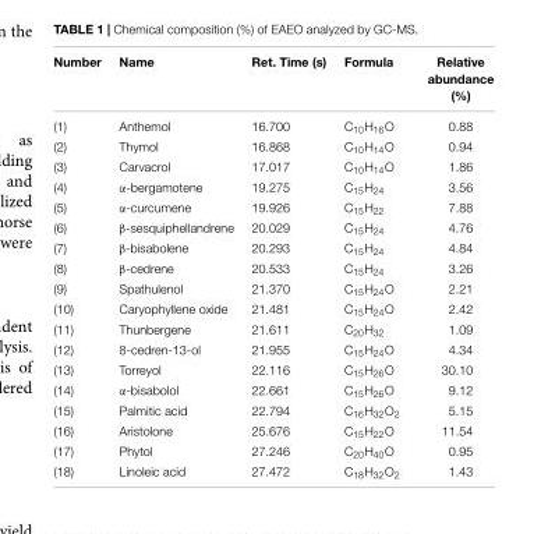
<table><thead><tr><td>Number</td><td>Name</td><td>Ret. Time (s)</td><td>Formula</td><td>Relative abundance (%)</td></tr></thead><tbody><tr><td>(1)</td><td>Anthemol</td><td>16.700</td><td>C<sub>10</sub>H<sub>16</sub>O</td><td>0.88</td></tr><tr><td>(2)</td><td>Thymol</td><td>16.868</td><td>C<sub>10</sub>H<sub>14</sub>O</td><td>0.94</td></tr><tr><td>(3)</td><td>Carvacrol</td><td>17.017</td><td>C<sub>10</sub>H<sub>14</sub>O</td><td>1.86</td></tr><tr><td>(4)</td><td>α-bergamotene</td><td>19.275</td><td>C<sub>15</sub>H<sub>24</sub></td><td>3.56</td></tr><tr><td>(5)</td><td>α-curcumene</td><td>19.926</td><td>C<sub>15</sub>H<sub>22</sub></td><td>7.88</td></tr><tr><td>(6)</td><td>β-sesquiphellandrene</td><td>20.029</td><td>C<sub>15</sub>H<sub>24</sub></td><td>4.76</td></tr><tr><td>(7)</td><td>β-bisabolene</td><td>20.293</td><td>C<sub>15</sub>H<sub>24</sub></td><td>4.84</td></tr><tr><td>(8)</td><td>β-cedrene</td><td>20.533</td><td>C<sub>15</sub>H<sub>24</sub></td><td>3.26</td></tr><tr><td>(9)</td><td>Spathulenol</td><td>21.370</td><td>C<sub>15</sub>H<sub>24</sub>O</td><td>2.21</td></tr><tr><td>(10)</td><td>Caryophyllene oxide</td><td>21.481</td><td>C<sub>15</sub>H<sub>24</sub>O</td><td>2.42</td></tr><tr><td>(11)</td><td>Thunbergene</td><td>21.611</td><td>C<sub>20</sub>H<sub>32</sub></td><td>1.09</td></tr><tr><td>(12)</td><td>8-cedren-13-ol</td><td>21.955</td><td>C<sub>15</sub>H<sub>24</sub>O</td><td>4.34</td></tr><tr><td>(13)</td><td>Torreyol</td><td>22.116</td><td>C<sub>15</sub>H<sub>26</sub>O</td><td>30.10</td></tr><tr><td>(14)</td><td>α-bisabolol</td><td>22.661</td><td>C<sub>15</sub>H<sub>26</sub>O</td><td>9.12</td></tr><tr><td>(15)</td><td>Palmitic acid</td><td>22.794</td><td>C<sub>16</sub>H<sub>32</sub>O<sub>2</sub></td><td>5.15</td></tr><tr><td>(16)</td><td>Aristolone</td><td>25.676</td><td>C<sub>15</sub>H<sub>22</sub>O</td><td>11.54</td></tr><tr><td>(17)</td><td>Phytol</td><td>27.246</td><td>C<sub>20</sub>H<sub>40</sub>O</td><td>0.95</td></tr><tr><td>(18)</td><td>Linoleic acid</td><td>27.472</td><td>C<sub>18</sub>H<sub>32</sub>O<sub>2</sub></td><td>1.43</td></tr></tbody></table>